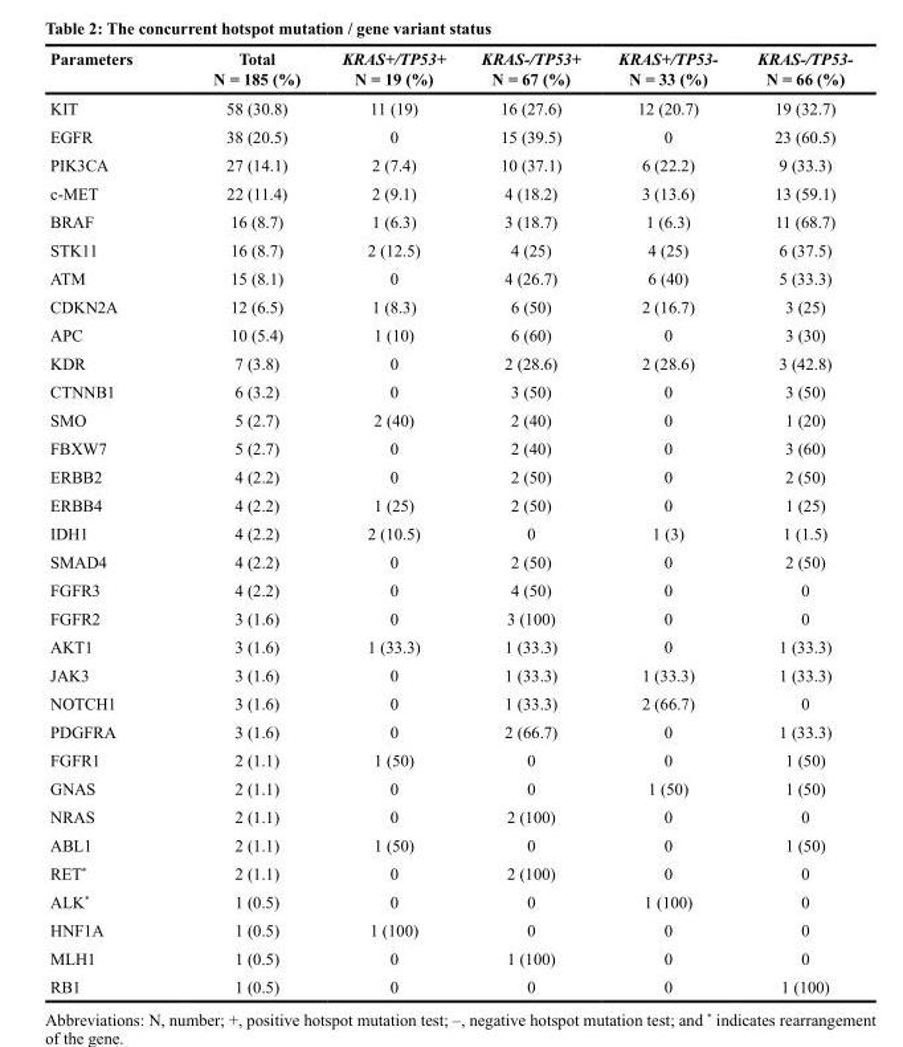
<table><thead><tr><td>Parameters</td><td>Total N = 185 (%)</td><td>KRAS+/TP53+ N = 19 (%)</td><td>KRAS-/TP53+ N = 67 (%)</td><td>KRAS+/TP53- N = 33 (%)</td><td>KRAS-/TP53- N = 66 (%)</td></tr></thead><tbody><tr><td>KIT</td><td>58 (30.8)</td><td>11 (19)</td><td>16 (27.6)</td><td>12 (20.7)</td><td>19 (32.7)</td></tr><tr><td>EGFR</td><td>38 (20.5)</td><td>0</td><td>15 (39.5)</td><td>0</td><td>23 (60.5)</td></tr><tr><td>PIK3CA</td><td>27 (14.1)</td><td>2 (7.4)</td><td>10 (37.1)</td><td>6 (22.2)</td><td>9 (33.3)</td></tr><tr><td>c-MET</td><td>22 (11.4)</td><td>2 (9.1)</td><td>4 (18.2)</td><td>3 (13.6)</td><td>13 (59.1)</td></tr><tr><td>BRAF</td><td>16 (8.7)</td><td>1 (6.3)</td><td>3 (18.7)</td><td>1 (6.3)</td><td>11 (68.7)</td></tr><tr><td>STK11</td><td>16 (8.7)</td><td>2 (12.5)</td><td>4 (25)</td><td>4 (25)</td><td>6 (37.5)</td></tr><tr><td>ATM</td><td>15 (8.1)</td><td>0</td><td>4 (26.7)</td><td>6 (40)</td><td>5 (33.3)</td></tr><tr><td>CDKN2A</td><td>12 (6.5)</td><td>1 (8.3)</td><td>6 (50)</td><td>2 (16.7)</td><td>3 (25)</td></tr><tr><td>APC</td><td>10 (5.4)</td><td>1 (10)</td><td>6 (60)</td><td>0</td><td>3 (30)</td></tr><tr><td>KDR</td><td>7 (3.8)</td><td>0</td><td>2 (28.6)</td><td>2 (28.6)</td><td>3 (42.8)</td></tr><tr><td>CTNNB1</td><td>6 (3.2)</td><td>0</td><td>3 (50)</td><td>0</td><td>3 (50)</td></tr><tr><td>SMO</td><td>5 (2.7)</td><td>2 (40)</td><td>2 (40)</td><td>0</td><td>1 (20)</td></tr><tr><td>FBXW7</td><td>5 (2.7)</td><td>0</td><td>2 (40)</td><td>0</td><td>3 (60)</td></tr><tr><td>ERBB2</td><td>4 (2.2)</td><td>0</td><td>2 (50)</td><td>0</td><td>2 (50)</td></tr><tr><td>ERBB4</td><td>4 (2.2)</td><td>1 (25)</td><td>2 (50)</td><td>0</td><td>1 (25)</td></tr><tr><td>IDH1</td><td>4 (2.2)</td><td>2 (10.5)</td><td>0</td><td>1 (3)</td><td>1 (1.5)</td></tr><tr><td>SMAD4</td><td>4 (2.2)</td><td>0</td><td>2 (50)</td><td>0</td><td>2 (50)</td></tr><tr><td>FGFR3</td><td>4 (2.2)</td><td>0</td><td>4 (50)</td><td>0</td><td>0</td></tr><tr><td>FGFR2</td><td>3 (1.6)</td><td>0</td><td>3 (100)</td><td>0</td><td>0</td></tr><tr><td>AKT1</td><td>3 (1.6)</td><td>1 (33.3)</td><td>1 (33.3)</td><td>0</td><td>1 (33.3)</td></tr><tr><td>JAK3</td><td>3 (1.6)</td><td>0</td><td>1 (33.3)</td><td>1 (33.3)</td><td>1 (33.3)</td></tr><tr><td>NOTCH1</td><td>3 (1.6)</td><td>0</td><td>1 (33.3)</td><td>2 (66.7)</td><td>0</td></tr><tr><td>PDGFRA</td><td>3 (1.6)</td><td>0</td><td>2 (66.7)</td><td>0</td><td>1 (33.3)</td></tr><tr><td>FGFR1</td><td>2 (1.1)</td><td>1 (50)</td><td>0</td><td>0</td><td>1 (50)</td></tr><tr><td>GNAS</td><td>2 (1.1)</td><td>0</td><td>0</td><td>1 (50)</td><td>1 (50)</td></tr><tr><td>NRAS</td><td>2 (1.1)</td><td>0</td><td>2 (100)</td><td>0</td><td>0</td></tr><tr><td>ABL1</td><td>2 (1.1)</td><td>1 (50)</td><td>0</td><td>0</td><td>1 (50)</td></tr><tr><td>RET*</td><td>2 (1.1)</td><td>0</td><td>2 (100)</td><td>0</td><td>0</td></tr><tr><td>ALK*</td><td>1 (0.5)</td><td>0</td><td>0</td><td>1 (100)</td><td>0</td></tr><tr><td>HNF1A</td><td>1 (0.5)</td><td>1 (100)</td><td>0</td><td>0</td><td>0</td></tr><tr><td>MLH1</td><td>1 (0.5)</td><td>0</td><td>1 (100)</td><td>0</td><td>0</td></tr><tr><td>RB1</td><td>1 (0.5)</td><td>0</td><td>0</td><td>0</td><td>1 (100)</td></tr></tbody></table>